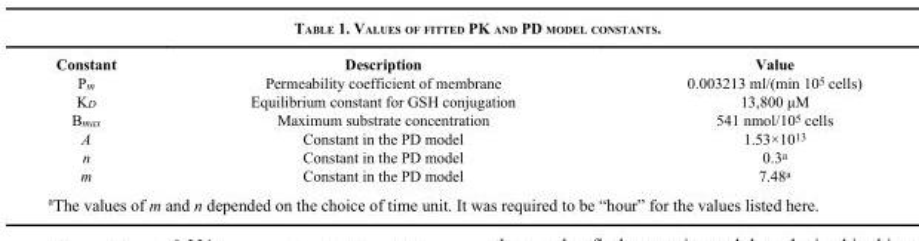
<table><thead><tr><td>Constant</td><td>Description</td><td>Value</td></tr></thead><tbody><tr><td>P<sub>m</sub></td><td>Permeability coefficient of membrane</td><td>0.003213 ml/(min 10<sup>5</sup> cells)</td></tr><tr><td>K<sub>D</sub></td><td>Equilibrium constant for GSH conjugation</td><td>13,800 μM</td></tr><tr><td>B<sub>max</sub></td><td>Maximum substrate concentration</td><td>541 nmol/10<sup>5</sup> cells</td></tr><tr><td>A</td><td>Constant in the PD model</td><td>1.53×10<sup>13</sup></td></tr><tr><td>n</td><td>Constant in the PD model</td><td>0.3<sup>a</sup></td></tr><tr><td>m</td><td>Constant in the PD model</td><td>7.48<sup>a</sup></td></tr></tbody></table>